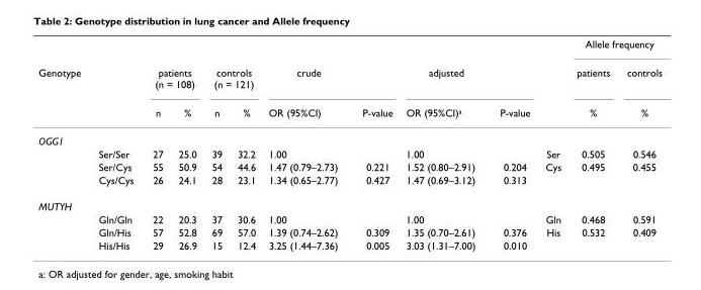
<table><thead><tr><td rowspan="3">Genotype</td><td rowspan="3"></td><td></td><td></td><td></td><td></td><td rowspan="3">crude OR (95%CI)</td><td rowspan="3">P-value</td><td rowspan="3">adjusted OR (95%CI)<sup>a</sup></td><td rowspan="3">P-value</td><td rowspan="3"></td><td colspan="2">Allele frequency</td></tr><tr><td colspan="2">patients (n = 108)</td><td colspan="2">controls (n = 121)</td><td rowspan="2">patients %</td><td rowspan="2">controls %</td></tr><tr><td>n</td><td>%</td><td>n</td><td>%</td></tr></thead><tbody><tr><td colspan="13">OGG1</td></tr><tr><td></td><td>Ser/Ser</td><td>27</td><td>25.0</td><td>39</td><td>32.2</td><td>1.00</td><td></td><td>1.00</td><td></td><td>Ser</td><td>0.505</td><td>0.546</td></tr><tr><td></td><td>Ser/Cys</td><td>55</td><td>50.9</td><td>54</td><td>44.6</td><td>1.47 (0.79–2.73)</td><td>0.221</td><td>1.52 (0.80–2.91)</td><td>0.204</td><td>Cys</td><td>0.495</td><td>0.455</td></tr><tr><td></td><td>Cys/Cys</td><td>26</td><td>24.1</td><td>28</td><td>23.1</td><td>1.34 (0.65–2.77)</td><td>0.427</td><td>1.47 (0.69–3.12)</td><td>0.313</td><td></td><td></td><td></td></tr><tr><td colspan="13">MUTYH</td></tr><tr><td></td><td>Gln/Gln</td><td>22</td><td>20.3</td><td>37</td><td>30.6</td><td>1.00</td><td></td><td>1.00</td><td></td><td>Gln</td><td>0.468</td><td>0.591</td></tr><tr><td></td><td>Gln/His</td><td>57</td><td>52.8</td><td>69</td><td>57.0</td><td>1.39 (0.74–2.62)</td><td>0.309</td><td>1.35 (0.70–2.61)</td><td>0.376</td><td>His</td><td>0.532</td><td>0.409</td></tr><tr><td></td><td>His/His</td><td>29</td><td>26.9</td><td>15</td><td>12.4</td><td>3.25 (1.44–7.36)</td><td>0.005</td><td>3.03 (1.31–7.00)</td><td>0.010</td><td></td><td></td><td></td></tr></tbody></table>